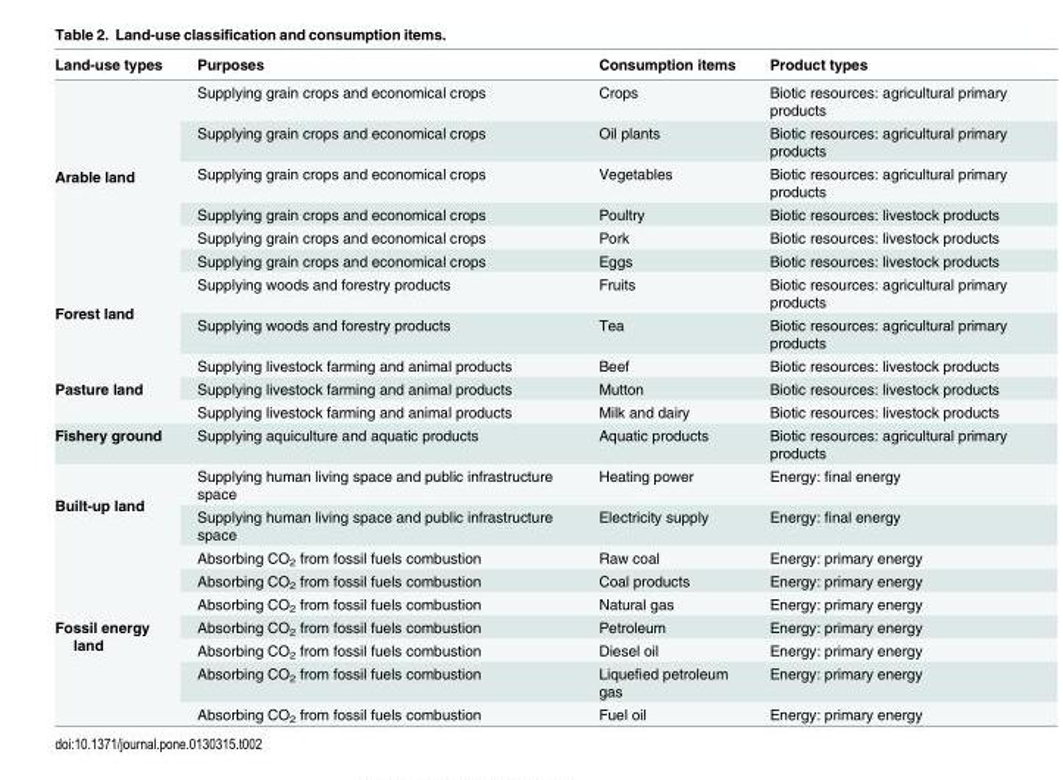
<table><thead><tr><td>Land-use types</td><td>Purposes</td><td>Consumption items</td><td>Product types</td></tr></thead><tbody><tr><td rowspan="6">Arable land</td><td>Supplying grain crops and economical crops</td><td>Crops</td><td>Biotic resources: agricultural primary products</td></tr><tr><td>Supplying grain crops and economical crops</td><td>Oil plants</td><td>Biotic resources: agricultural primary products</td></tr><tr><td>Supplying grain crops and economical crops</td><td>Vegetables</td><td>Biotic resources: agricultural primary products</td></tr><tr><td>Supplying grain crops and economical crops</td><td>Poultry</td><td>Biotic resources: livestock products</td></tr><tr><td>Supplying grain crops and economical crops</td><td>Pork</td><td>Biotic resources: livestock products</td></tr><tr><td>Supplying grain crops and economical crops</td><td>Eggs</td><td>Biotic resources: livestock products</td></tr><tr><td rowspan="2">Forest land</td><td>Supplying woods and forestry products</td><td>Fruits</td><td>Biotic resources: agricultural primary products</td></tr><tr><td>Supplying woods and forestry products</td><td>Tea</td><td>Biotic resources: agricultural primary products</td></tr><tr><td rowspan="3">Pasture land</td><td>Supplying livestock farming and animal products</td><td>Beef</td><td>Biotic resources: livestock products</td></tr><tr><td>Supplying livestock farming and animal products</td><td>Mutton</td><td>Biotic resources: livestock products</td></tr><tr><td>Supplying livestock farming and animal products</td><td>Milk and dairy</td><td>Biotic resources: livestock products</td></tr><tr><td>Fishery ground</td><td>Supplying aquiculture and aquatic products</td><td>Aquatic products</td><td>Biotic resources: agricultural primary products</td></tr><tr><td rowspan="2">Built-up land</td><td>Supplying human living space and public infrastructure space</td><td>Heating power</td><td>Energy: final energy</td></tr><tr><td>Supplying human living space and public infrastructure space</td><td>Electricity supply</td><td>Energy: final energy</td></tr><tr><td rowspan="7">Fossil energy land</td><td>Absorbing CO<sub>2</sub> from fossil fuels combustion</td><td>Raw coal</td><td>Energy: primary energy</td></tr><tr><td>Absorbing CO<sub>2</sub> from fossil fuels combustion</td><td>Coal products</td><td>Energy: primary energy</td></tr><tr><td>Absorbing CO<sub>2</sub> from fossil fuels combustion</td><td>Natural gas</td><td>Energy: primary energy</td></tr><tr><td>Absorbing CO<sub>2</sub> from fossil fuels combustion</td><td>Petroleum</td><td>Energy: primary energy</td></tr><tr><td>Absorbing CO<sub>2</sub> from fossil fuels combustion</td><td>Diesel oil</td><td>Energy: primary energy</td></tr><tr><td>Absorbing CO<sub>2</sub> from fossil fuels combustion</td><td>Liquefied petroleum gas</td><td>Energy: primary energy</td></tr><tr><td>Absorbing CO<sub>2</sub> from fossil fuels combustion</td><td>Fuel oil</td><td>Energy: primary energy</td></tr></tbody></table>